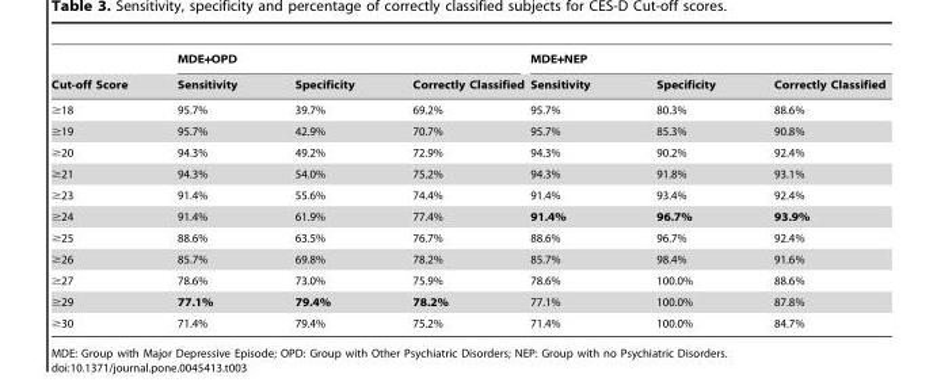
<table><thead><tr><td rowspan="2">Cut-off Score</td><td colspan="3">MDE+OPD</td><td colspan="3">MDE+NEP</td></tr><tr><td>Sensitivity</td><td>Specificity</td><td>Correctly Classified</td><td>Sensitivity</td><td>Specificity</td><td>Correctly Classified</td></tr></thead><tbody><tr><td>≥18</td><td>95.7%</td><td>39.7%</td><td>69.2%</td><td>95.7%</td><td>80.3%</td><td>88.6%</td></tr><tr><td>≥19</td><td>95.7%</td><td>42.9%</td><td>70.7%</td><td>95.7%</td><td>85.3%</td><td>90.8%</td></tr><tr><td>≥20</td><td>94.3%</td><td>49.2%</td><td>72.9%</td><td>94.3%</td><td>90.2%</td><td>92.4%</td></tr><tr><td>≥21</td><td>94.3%</td><td>54.0%</td><td>75.2%</td><td>94.3%</td><td>91.8%</td><td>93.1%</td></tr><tr><td>≥23</td><td>91.4%</td><td>55.6%</td><td>74.4%</td><td>91.4%</td><td>93.4%</td><td>92.4%</td></tr><tr><td>≥24</td><td>91.4%</td><td>61.9%</td><td>77.4%</td><td>91.4%</td><td>96.7%</td><td>93.9%</td></tr><tr><td>≥25</td><td>88.6%</td><td>63.5%</td><td>76.7%</td><td>88.6%</td><td>96.7%</td><td>92.4%</td></tr><tr><td>≥26</td><td>85.7%</td><td>69.8%</td><td>78.2%</td><td>85.7%</td><td>98.4%</td><td>91.6%</td></tr><tr><td>≥27</td><td>78.6%</td><td>73.0%</td><td>75.9%</td><td>78.6%</td><td>100.0%</td><td>88.6%</td></tr><tr><td>≥29</td><td>77.1%</td><td>79.4%</td><td>78.2%</td><td>77.1%</td><td>100.0%</td><td>87.8%</td></tr><tr><td>≥30</td><td>71.4%</td><td>79.4%</td><td>75.2%</td><td>71.4%</td><td>100.0%</td><td>84.7%</td></tr></tbody></table>